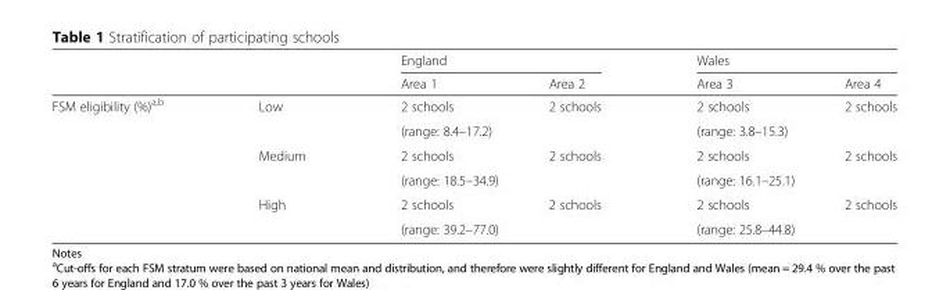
<table><thead><tr><td rowspan="2"></td><td rowspan="2"></td><td colspan="2">England</td><td colspan="2">Wales</td></tr><tr><td>Area 1</td><td>Area 2</td><td>Area 3</td><td>Area 4</td></tr></thead><tbody><tr><td rowspan="6">FSM eligibility (%)<sup>a,b</sup></td><td>Low</td><td>2 schools</td><td>2 schools</td><td>2 schools</td><td>2 schools</td></tr><tr><td></td><td colspan="2">(range: 8.4–17.2)</td><td colspan="2">(range: 3.8–15.3)</td></tr><tr><td>Medium</td><td>2 schools</td><td>2 schools</td><td>2 schools</td><td>2 schools</td></tr><tr><td></td><td colspan="2">(range: 18.5–34.9)</td><td colspan="2">(range: 16.1–25.1)</td></tr><tr><td>High</td><td>2 schools</td><td>2 schools</td><td>2 schools</td><td>2 schools</td></tr><tr><td></td><td colspan="2">(range: 39.2–77.0)</td><td colspan="2">(range: 25.8–44.8)</td></tr></tbody></table>